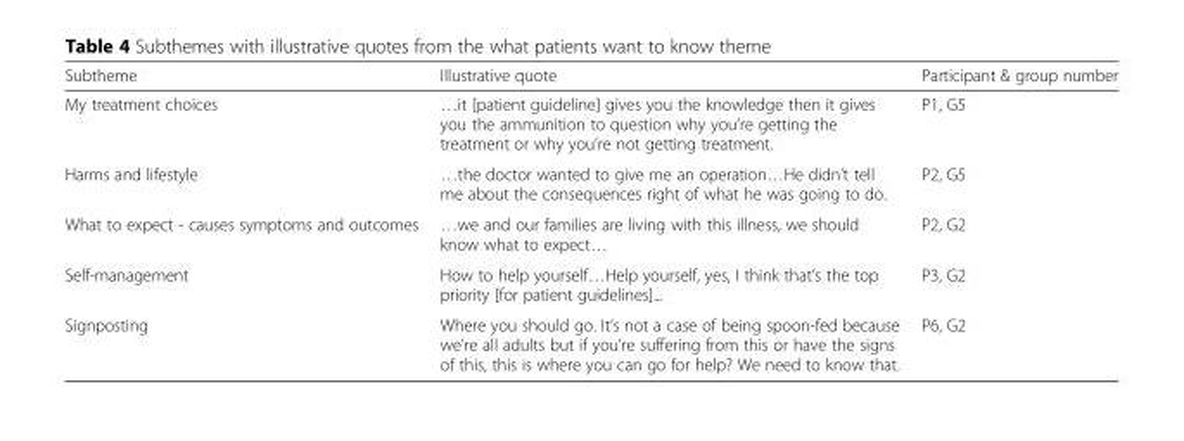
<table><thead><tr><td>Subtheme</td><td>Illustrative quote</td><td>Participant &amp; group number</td></tr></thead><tbody><tr><td>My treatment choices</td><td>…it [patient guideline] gives you the knowledge then it gives you the ammunition to question why you’re getting the treatment or why you’re not getting treatment.</td><td>P1, G5</td></tr><tr><td>Harms and lifestyle</td><td>…the doctor wanted to give me an operation…He didn’t tell me about the consequences right of what he was going to do.</td><td>P2, G5</td></tr><tr><td>What to expect - causes symptoms and outcomes</td><td>…we and our families are living with this illness, we should know what to expect…</td><td>P2, G2</td></tr><tr><td>Self-management</td><td>How to help yourself…Help yourself, yes, I think that’s the top priority [for patient guidelines]...</td><td>P3, G2</td></tr><tr><td>Signposting</td><td>Where you should go. It’s not a case of being spoon-fed because we’re all adults but if you’re suffering from this or have the signs of this, this is where you can go for help? We need to know that.</td><td>P6, G2</td></tr></tbody></table>